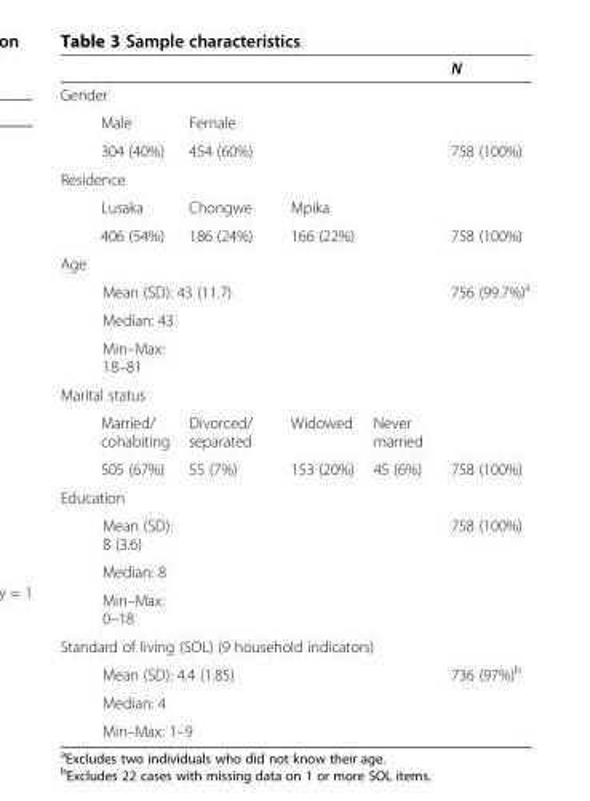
<table><thead><tr><td></td><td></td><td></td><td></td><td>N</td></tr></thead><tbody><tr><td colspan="5">Gender</td></tr><tr><td>Male</td><td>Female</td><td></td><td></td><td></td></tr><tr><td>304 (40%)</td><td>454 (60%)</td><td></td><td></td><td>758 (100%)</td></tr><tr><td colspan="5">Residence</td></tr><tr><td>Lusaka</td><td>Chongwe</td><td>Mpika</td><td></td><td></td></tr><tr><td>406 (54%)</td><td>186 (24%)</td><td>166 (22%)</td><td></td><td>758 (100%)</td></tr><tr><td colspan="5">Age</td></tr><tr><td colspan="2">Mean (SD): 43 (11.7)</td><td></td><td></td><td>756 (99.7%)<sup>a</sup></td></tr><tr><td colspan="5">Median: 43</td></tr><tr><td colspan="5">Min–Max: 18–81</td></tr><tr><td colspan="5">Marital status</td></tr><tr><td>Married/ cohabiting</td><td>Divorced/ separated</td><td>Widowed</td><td>Never married</td><td></td></tr><tr><td>505 (67%)</td><td>55 (7%)</td><td>153 (20%)</td><td>45 (6%)</td><td>758 (100%)</td></tr><tr><td colspan="5">Education</td></tr><tr><td>Mean (SD): 8 (3.6)</td><td></td><td></td><td></td><td>758 (100%)</td></tr><tr><td colspan="5">Median: 8</td></tr><tr><td colspan="5">Min–Max: 0–18</td></tr><tr><td colspan="5">Standard of living (SOL) (9 household indicators)</td></tr><tr><td colspan="3">Mean (SD): 4.4 (1.85)</td><td></td><td>736 (97%)<sup>b</sup></td></tr><tr><td colspan="5">Median: 4</td></tr><tr><td colspan="3">Min–Max: 1–9</td><td></td><td></td></tr></tbody></table>